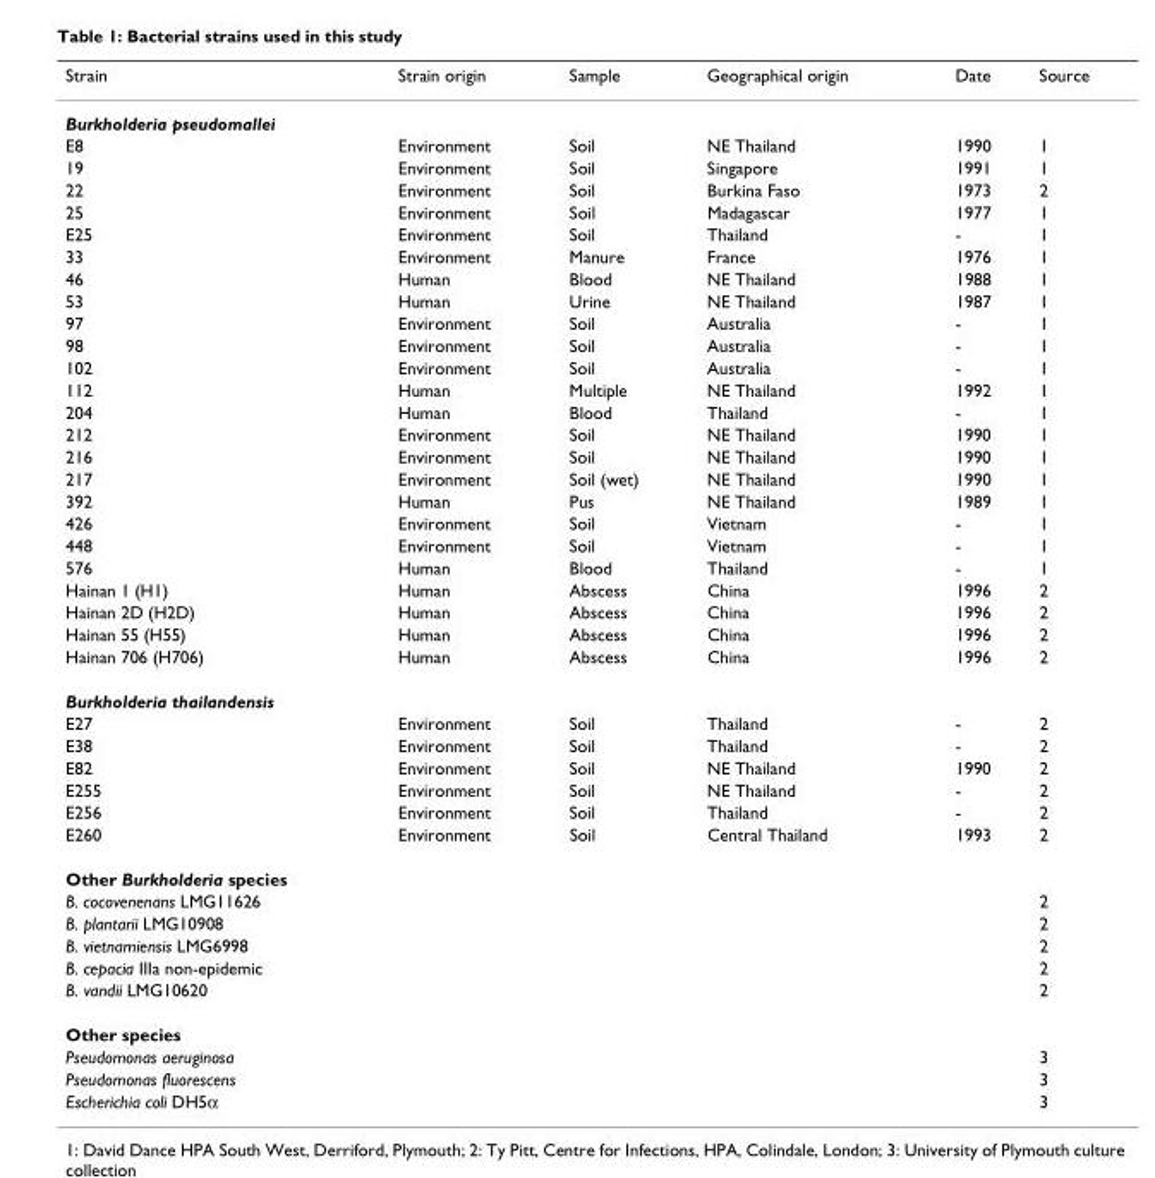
<table><thead><tr><td>Strain</td><td>Strain origin</td><td>Sample</td><td>Geographical origin</td><td>Date</td><td>Source</td></tr></thead><tbody><tr><td colspan="6">Burkholderia pseudomallei</td></tr><tr><td>E8</td><td>Environment</td><td>Soil</td><td>NE Thailand</td><td>1990</td><td>1</td></tr><tr><td>19</td><td>Environment</td><td>Soil</td><td>Singapore</td><td>1991</td><td>1</td></tr><tr><td>22</td><td>Environment</td><td>Soil</td><td>Burkina Faso</td><td>1973</td><td>2</td></tr><tr><td>25</td><td>Environment</td><td>Soil</td><td>Madagascar</td><td>1977</td><td>1</td></tr><tr><td>E25</td><td>Environment</td><td>Soil</td><td>Thailand</td><td>-</td><td>1</td></tr><tr><td>33</td><td>Environment</td><td>Manure</td><td>France</td><td>1976</td><td>1</td></tr><tr><td>46</td><td>Human</td><td>Blood</td><td>NE Thailand</td><td>1988</td><td>1</td></tr><tr><td>53</td><td>Human</td><td>Urine</td><td>NE Thailand</td><td>1987</td><td>1</td></tr><tr><td>97</td><td>Environment</td><td>Soil</td><td>Australia</td><td>-</td><td>1</td></tr><tr><td>98</td><td>Environment</td><td>Soil</td><td>Australia</td><td>-</td><td>1</td></tr><tr><td>102</td><td>Environment</td><td>Soil</td><td>Australia</td><td>-</td><td>1</td></tr><tr><td>112</td><td>Human</td><td>Multiple</td><td>NE Thailand</td><td>1992</td><td>1</td></tr><tr><td>204</td><td>Human</td><td>Blood</td><td>Thailand</td><td>-</td><td>1</td></tr><tr><td>212</td><td>Environment</td><td>Soil</td><td>NE Thailand</td><td>1990</td><td>1</td></tr><tr><td>216</td><td>Environment</td><td>Soil</td><td>NE Thailand</td><td>1990</td><td>1</td></tr><tr><td>217</td><td>Environment</td><td>Soil (wet)</td><td>NE Thailand</td><td>1990</td><td>1</td></tr><tr><td>392</td><td>Human</td><td>Pus</td><td>NE Thailand</td><td>1989</td><td>1</td></tr><tr><td>426</td><td>Environment</td><td>Soil</td><td>Vietnam</td><td>-</td><td>1</td></tr><tr><td>448</td><td>Environment</td><td>Soil</td><td>Vietnam</td><td>-</td><td>1</td></tr><tr><td>576</td><td>Human</td><td>Blood</td><td>Thailand</td><td>-</td><td>1</td></tr><tr><td>Hainan 1 (H1)</td><td>Human</td><td>Abscess</td><td>China</td><td>1996</td><td>2</td></tr><tr><td>Hainan 2D (H2D)</td><td>Human</td><td>Abscess</td><td>China</td><td>1996</td><td>2</td></tr><tr><td>Hainan 55 (H55)</td><td>Human</td><td>Abscess</td><td>China</td><td>1996</td><td>2</td></tr><tr><td>Hainan 706 (H706)</td><td>Human</td><td>Abscess</td><td>China</td><td>1996</td><td>2</td></tr><tr><td colspan="6">Burkholderia thailandensis</td></tr><tr><td>E27</td><td>Environment</td><td>Soil</td><td>Thailand</td><td>-</td><td>2</td></tr><tr><td>E38</td><td>Environment</td><td>Soil</td><td>Thailand</td><td>-</td><td>2</td></tr><tr><td>E82</td><td>Environment</td><td>Soil</td><td>NE Thailand</td><td>1990</td><td>2</td></tr><tr><td>E255</td><td>Environment</td><td>Soil</td><td>NE Thailand</td><td>-</td><td>2</td></tr><tr><td>E256</td><td>Environment</td><td>Soil</td><td>Thailand</td><td>-</td><td>2</td></tr><tr><td>E260</td><td>Environment</td><td>Soil</td><td>Central Thailand</td><td>1993</td><td>2</td></tr><tr><td colspan="6">Other Burkholderia species</td></tr><tr><td>B. cocovenenans LMG11626</td><td></td><td></td><td></td><td></td><td>2</td></tr><tr><td>B. plantarii LMG10908</td><td></td><td></td><td></td><td></td><td>2</td></tr><tr><td>B. vietnamiensis LMG6998</td><td></td><td></td><td></td><td></td><td>2</td></tr><tr><td>B. cepacia IIIa non-epidemic</td><td></td><td></td><td></td><td></td><td>2</td></tr><tr><td>B. vandii LMG10620</td><td></td><td></td><td></td><td></td><td>2</td></tr><tr><td colspan="6">Other species</td></tr><tr><td>Pseudomonas aeruginosa</td><td></td><td></td><td></td><td></td><td>3</td></tr><tr><td>Pseudomonas fluorescens</td><td></td><td></td><td></td><td></td><td>3</td></tr><tr><td>Escherichia coli DH5α</td><td></td><td></td><td></td><td></td><td>3</td></tr></tbody></table>